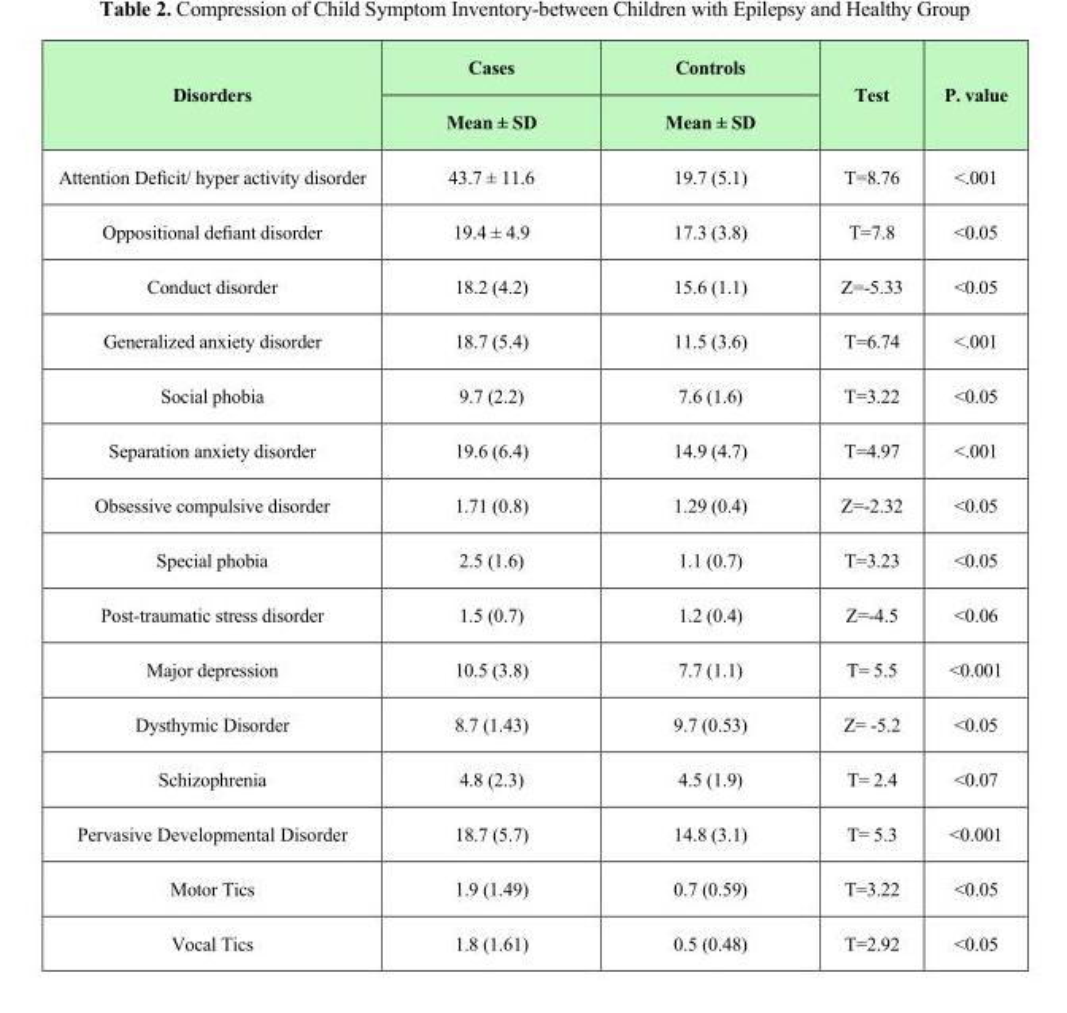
<table><thead><tr><td rowspan="2">Disorders</td><td rowspan="2">Cases Mean ± SD</td><td rowspan="2">Controls Mean ± SD</td><td rowspan="2">Test</td><td rowspan="2">P. value</td></tr><tr></tr></thead><tbody><tr><td>Attention Deficit/ hyper activity disorder</td><td>43.7 ± 11.6</td><td>19.7 (5.1)</td><td>T=8.76</td><td>&lt;.001</td></tr><tr><td>Oppositional defiant disorder</td><td>19.4 ± 4.9</td><td>17.3 (3.8)</td><td>T=7.8</td><td>&lt;0.05</td></tr><tr><td>Conduct disorder</td><td>18.2 (4.2)</td><td>15.6 (1.1)</td><td>Z=-5.33</td><td>&lt;0.05</td></tr><tr><td>Generalized anxiety disorder</td><td>18.7 (5.4)</td><td>11.5 (3.6)</td><td>T=6.74</td><td>&lt;.001</td></tr><tr><td>Social phobia</td><td>9.7 (2.2)</td><td>7.6 (1.6)</td><td>T=3.22</td><td>&lt;0.05</td></tr><tr><td>Separation anxiety disorder</td><td>19.6 (6.4)</td><td>14.9 (4.7)</td><td>T=4.97</td><td>&lt;.001</td></tr><tr><td>Obsessive compulsive disorder</td><td>1.71 (0.8)</td><td>1.29 (0.4)</td><td>Z=-2.32</td><td>&lt;0.05</td></tr><tr><td>Special phobia</td><td>2.5 (1.6)</td><td>1.1 (0.7)</td><td>T=3.23</td><td>&lt;0.05</td></tr><tr><td>Post-traumatic stress disorder</td><td>1.5 (0.7)</td><td>1.2 (0.4)</td><td>Z=-4.5</td><td>&lt;0.06</td></tr><tr><td>Major depression</td><td>10.5 (3.8)</td><td>7.7 (1.1)</td><td>T= 5.5</td><td>&lt;0.001</td></tr><tr><td>Dysthymic Disorder</td><td>8.7 (1.43)</td><td>9.7 (0.53)</td><td>Z= -5.2</td><td>&lt;0.05</td></tr><tr><td>Schizophrenia</td><td>4.8 (2.3)</td><td>4.5 (1.9)</td><td>T= 2.4</td><td>&lt;0.07</td></tr><tr><td>Pervasive Developmental Disorder</td><td>18.7 (5.7)</td><td>14.8 (3.1)</td><td>T= 5.3</td><td>&lt;0.001</td></tr><tr><td>Motor Tics</td><td>1.9 (1.49)</td><td>0.7 (0.59)</td><td>T=3.22</td><td>&lt;0.05</td></tr><tr><td>Vocal Tics</td><td>1.8 (1.61)</td><td>0.5 (0.48)</td><td>T=2.92</td><td>&lt;0.05</td></tr></tbody></table>